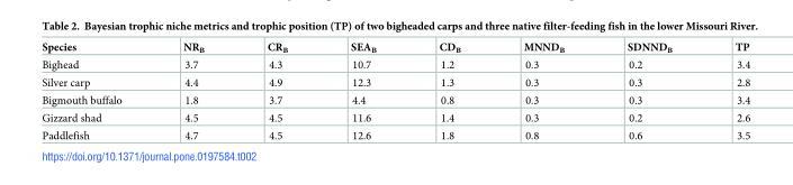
<table><thead><tr><td>Species</td><td>NR<sub>B</sub></td><td>CR<sub>B</sub></td><td>SEA<sub>B</sub></td><td>CD<sub>B</sub></td><td>MNND<sub>B</sub></td><td>SDNND<sub>B</sub></td><td>TP</td></tr></thead><tbody><tr><td>Bighead</td><td>3.7</td><td>4.3</td><td>10.7</td><td>1.2</td><td>0.3</td><td>0.2</td><td>3.4</td></tr><tr><td>Silver carp</td><td>4.4</td><td>4.9</td><td>12.3</td><td>1.3</td><td>0.3</td><td>0.3</td><td>2.8</td></tr><tr><td>Bigmouth buffalo</td><td>1.8</td><td>3.7</td><td>4.4</td><td>0.8</td><td>0.3</td><td>0.3</td><td>3.4</td></tr><tr><td>Gizzard shad</td><td>4.5</td><td>4.5</td><td>11.6</td><td>1.4</td><td>0.3</td><td>0.2</td><td>2.6</td></tr><tr><td>Paddlefish</td><td>4.7</td><td>4.5</td><td>12.6</td><td>1.8</td><td>0.8</td><td>0.6</td><td>3.5</td></tr></tbody></table>